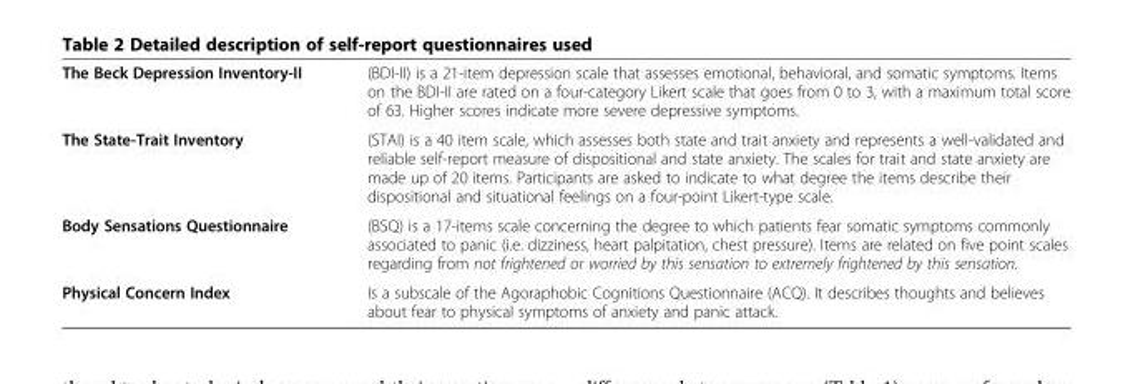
<table><tbody><tr><td>The Beck Depression Inventory-II</td><td>(BDI-II) is a 21-item depression scale that assesses emotional, behavioral, and somatic symptoms. Items on the BDI-II are rated on a four-category Likert scale that goes from 0 to 3, with a maximum total score of 63. Higher scores indicate more severe depressive symptoms.</td></tr><tr><td>The State-Trait Inventory</td><td>(STAI) is a 40 item scale, which assesses both state and trait anxiety and represents a well-validated and reliable self-report measure of dispositional and state anxiety. The scales for trait and state anxiety are made up of 20 items. Participants are asked to indicate to what degree the items describe their dispositional and situational feelings on a four-point Likert-type scale.</td></tr><tr><td>Body Sensations Questionnaire</td><td>(BSQ) is a 17-items scale concerning the degree to which patients fear somatic symptoms commonly associated to panic (i.e. dizziness, heart palpitation, chest pressure). Items are related on five point scales regarding from not frightened or worried by this sensation to extremely frightened by this sensation.</td></tr><tr><td>Physical Concern Index</td><td>Is a subscale of the Agoraphobic Cognitions Questionnaire (ACQ). It describes thoughts and believes about fear to physical symptoms of anxiety and panic attack.</td></tr></tbody></table>